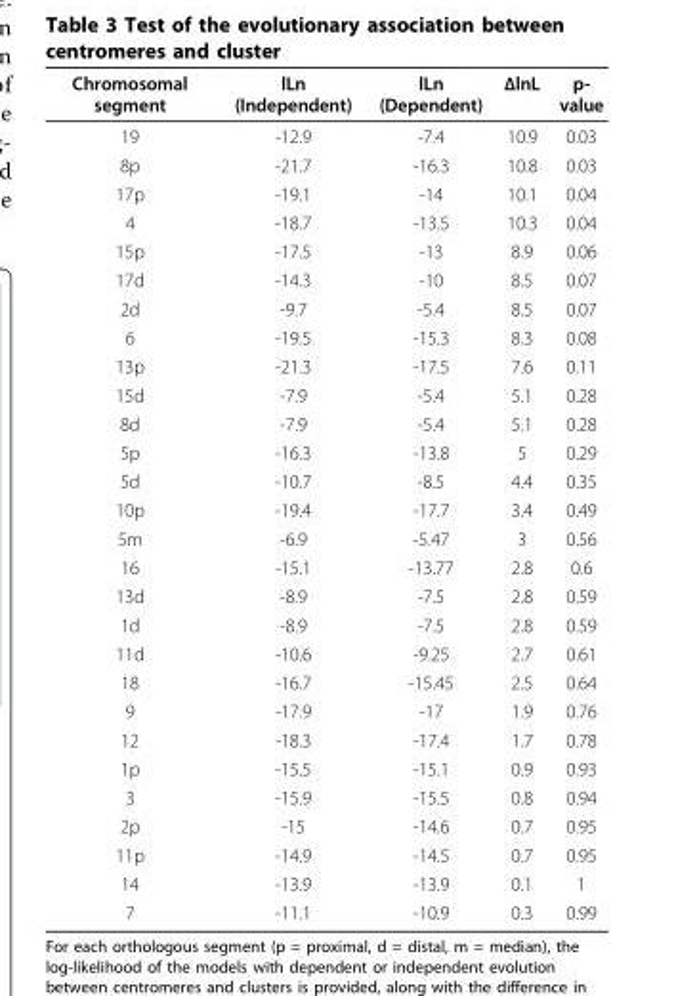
<table><thead><tr><td>Chromosomal segment</td><td>lLn (Independent)</td><td>lLn (Dependent)</td><td>ΔlnL</td><td>p- value</td></tr></thead><tbody><tr><td>19</td><td>-12.9</td><td>-7.4</td><td>10.9</td><td>0.03</td></tr><tr><td>8p</td><td>-21.7</td><td>-16.3</td><td>10.8</td><td>0.03</td></tr><tr><td>17p</td><td>-19.1</td><td>-14</td><td>10.1</td><td>0.04</td></tr><tr><td>4</td><td>-18.7</td><td>-13.5</td><td>10.3</td><td>0.04</td></tr><tr><td>15p</td><td>-17.5</td><td>-13</td><td>8.9</td><td>0.06</td></tr><tr><td>17d</td><td>-14.3</td><td>-10</td><td>8.5</td><td>0.07</td></tr><tr><td>2d</td><td>-9.7</td><td>-5.4</td><td>8.5</td><td>0.07</td></tr><tr><td>6</td><td>-19.5</td><td>-15.3</td><td>8.3</td><td>0.08</td></tr><tr><td>13p</td><td>-21.3</td><td>-17.5</td><td>7.6</td><td>0.11</td></tr><tr><td>15d</td><td>-7.9</td><td>-5.4</td><td>5.1</td><td>0.28</td></tr><tr><td>8d</td><td>-7.9</td><td>-5.4</td><td>5.1</td><td>0.28</td></tr><tr><td>5p</td><td>-16.3</td><td>-13.8</td><td>5</td><td>0.29</td></tr><tr><td>5d</td><td>-10.7</td><td>-8.5</td><td>4.4</td><td>0.35</td></tr><tr><td>10p</td><td>-19.4</td><td>-17.7</td><td>3.4</td><td>0.49</td></tr><tr><td>5m</td><td>-6.9</td><td>-5.47</td><td>3</td><td>0.56</td></tr><tr><td>16</td><td>-15.1</td><td>-13.77</td><td>2.8</td><td>0.6</td></tr><tr><td>13d</td><td>-8.9</td><td>-7.5</td><td>2.8</td><td>0.59</td></tr><tr><td>1d</td><td>-8.9</td><td>-7.5</td><td>2.8</td><td>0.59</td></tr><tr><td>11d</td><td>-10.6</td><td>-9.25</td><td>2.7</td><td>0.61</td></tr><tr><td>18</td><td>-16.7</td><td>-15.45</td><td>2.5</td><td>0.64</td></tr><tr><td>9</td><td>-17.9</td><td>-17</td><td>1.9</td><td>0.76</td></tr><tr><td>12</td><td>-18.3</td><td>-17.4</td><td>1.7</td><td>0.78</td></tr><tr><td>1p</td><td>-15.5</td><td>-15.1</td><td>0.9</td><td>0.93</td></tr><tr><td>3</td><td>-15.9</td><td>-15.5</td><td>0.8</td><td>0.94</td></tr><tr><td>2p</td><td>-15</td><td>-14.6</td><td>0.7</td><td>0.95</td></tr><tr><td>11p</td><td>-14.9</td><td>-14.5</td><td>0.7</td><td>0.95</td></tr><tr><td>14</td><td>-13.9</td><td>-13.9</td><td>0.1</td><td>1</td></tr><tr><td>7</td><td>-11.1</td><td>-10.9</td><td>0.3</td><td>0.99</td></tr></tbody></table>